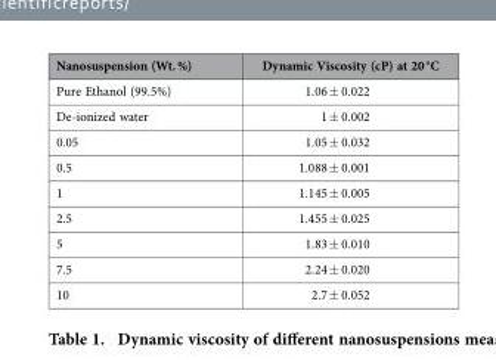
<table><thead><tr><td>Nanosuspension (Wt. %)</td><td>Dynamic Viscosity (cP) at 20 °C</td></tr></thead><tbody><tr><td>Pure Ethanol (99.5%)</td><td>1.06 ± 0.022</td></tr><tr><td>De-ionized water</td><td>1 ± 0.002</td></tr><tr><td>0.05</td><td>1.05 ± 0.032</td></tr><tr><td>0.5</td><td>1.088 ± 0.001</td></tr><tr><td>1</td><td>1.145 ± 0.005</td></tr><tr><td>2.5</td><td>1.455 ± 0.025</td></tr><tr><td>5</td><td>1.83 ± 0.010</td></tr><tr><td>7.5</td><td>2.24 ± 0.020</td></tr><tr><td>10</td><td>2.7 ± 0.052</td></tr></tbody></table>